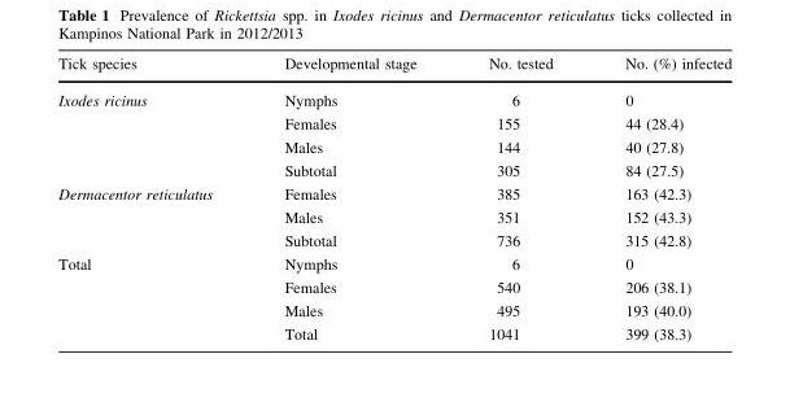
<table><thead><tr><td>Tick species</td><td>Developmental stage</td><td>No. tested</td><td>No. (%) infected</td></tr></thead><tbody><tr><td rowspan="4">Ixodes ricinus</td><td>Nymphs</td><td>6</td><td>0</td></tr><tr><td>Females</td><td>155</td><td>44 (28.4)</td></tr><tr><td>Males</td><td>144</td><td>40 (27.8)</td></tr><tr><td>Subtotal</td><td>305</td><td>84 (27.5)</td></tr><tr><td rowspan="3">Dermacentor reticulatus</td><td>Females</td><td>385</td><td>163 (42.3)</td></tr><tr><td>Males</td><td>351</td><td>152 (43.3)</td></tr><tr><td>Subtotal</td><td>736</td><td>315 (42.8)</td></tr><tr><td rowspan="4">Total</td><td>Nymphs</td><td>6</td><td>0</td></tr><tr><td>Females</td><td>540</td><td>206 (38.1)</td></tr><tr><td>Males</td><td>495</td><td>193 (40.0)</td></tr><tr><td>Total</td><td>1041</td><td>399 (38.3)</td></tr></tbody></table>